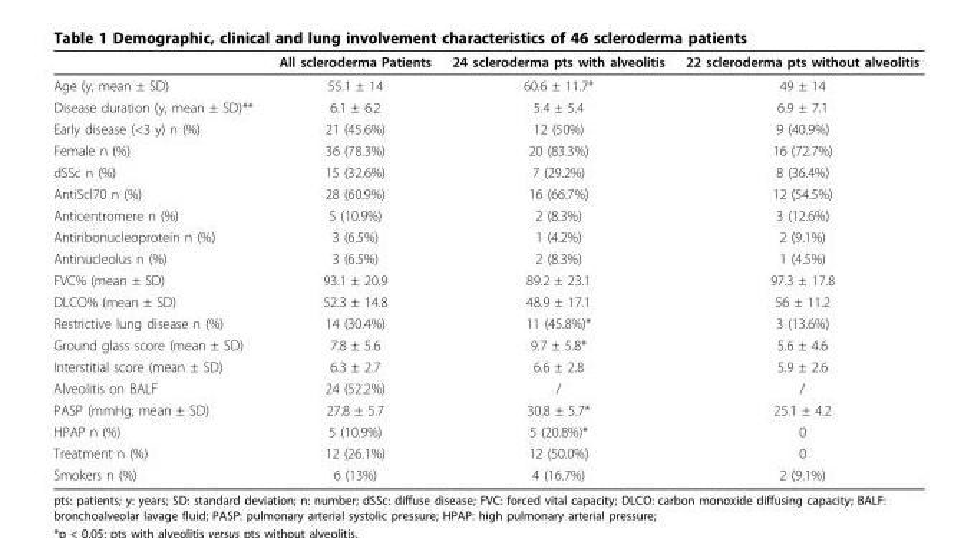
<table><thead><tr><td></td><td>All scleroderma Patients</td><td>24 scleroderma pts with alveolitis</td><td>22 scleroderma pts without alveolitis</td></tr></thead><tbody><tr><td>Age (y, mean ± SD)</td><td>55.1 ± 14</td><td>60.6 ± 11.7*</td><td>49 ± 14</td></tr><tr><td>Disease duration (y, mean ± SD)**</td><td>6.1 ± 6.2</td><td>5.4 ± 5.4</td><td>6.9 ± 7.1</td></tr><tr><td>Early disease (&lt;3 y) n (%)</td><td>21 (45.6%)</td><td>12 (50%)</td><td>9 (40.9%)</td></tr><tr><td>Female n (%)</td><td>36 (78.3%)</td><td>20 (83.3%)</td><td>16 (72.7%)</td></tr><tr><td>dSSc n (%)</td><td>15 (32.6%)</td><td>7 (29.2%)</td><td>8 (36.4%)</td></tr><tr><td>AntiScl70 n (%)</td><td>28 (60.9%)</td><td>16 (66.7%)</td><td>12 (54.5%)</td></tr><tr><td>Anticentromere n (%)</td><td>5 (10.9%)</td><td>2 (8.3%)</td><td>3 (12.6%)</td></tr><tr><td>Antiribonucleoprotein n (%)</td><td>3 (6.5%)</td><td>1 (4.2%)</td><td>2 (9.1%)</td></tr><tr><td>Antinucleolus n (%)</td><td>3 (6.5%)</td><td>2 (8.3%)</td><td>1 (4.5%)</td></tr><tr><td>FVC% (mean ± SD)</td><td>93.1 ± 20.9</td><td>89.2 ± 23.1</td><td>97.3 ± 17.8</td></tr><tr><td>DLCO% (mean ± SD)</td><td>52.3 ± 14.8</td><td>48.9 ± 17.1</td><td>56 ± 11.2</td></tr><tr><td>Restrictive lung disease n (%)</td><td>14 (30.4%)</td><td>11 (45.8%)*</td><td>3 (13.6%)</td></tr><tr><td>Ground glass score (mean ± SD)</td><td>7.8 ± 5.6</td><td>9.7 ± 5.8*</td><td>5.6 ± 4.6</td></tr><tr><td>Interstitial score (mean ± SD)</td><td>6.3 ± 2.7</td><td>6.6 ± 2.8</td><td>5.9 ± 2.6</td></tr><tr><td>Alveolitis on BALF</td><td>24 (52.2%)</td><td>/</td><td>/</td></tr><tr><td>PASP (mmHg; mean ± SD)</td><td>27.8 ± 5.7</td><td>30.8 ± 5.7*</td><td>25.1 ± 4.2</td></tr><tr><td>HPAP n (%)</td><td>5 (10.9%)</td><td>5 (20.8%)*</td><td>0</td></tr><tr><td>Treatment n (%)</td><td>12 (26.1%)</td><td>12 (50.0%)</td><td>0</td></tr><tr><td>Smokers n (%)</td><td>6 (13%)</td><td>4 (16.7%)</td><td>2 (9.1%)</td></tr></tbody></table>